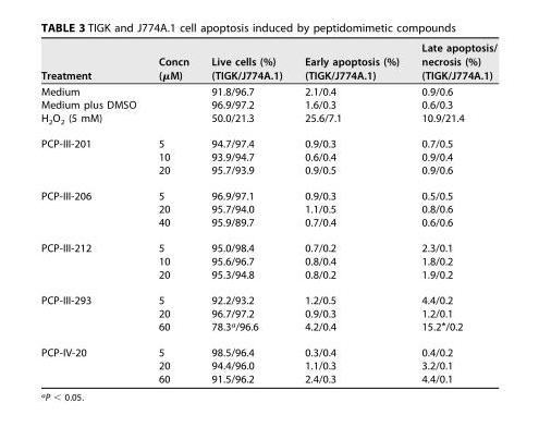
<table><thead><tr><td>Treatment</td><td>Concn (μM)</td><td>Live cells (%) (TIGK/J774A.1)</td><td>Early apoptosis (%) (TIGK/J774A.1)</td><td>Late apoptosis/ necrosis (%) (TIGK/J774A.1)</td></tr></thead><tbody><tr><td>Medium</td><td></td><td>91.8/96.7</td><td>2.1/0.4</td><td>0.9/0.6</td></tr><tr><td>Medium plus DMSO</td><td></td><td>96.9/97.2</td><td>1.6/0.3</td><td>0.6/0.3</td></tr><tr><td>H<sub>2</sub>O<sub>2</sub> (5 mM)</td><td></td><td>50.0/21.3</td><td>25.6/7.1</td><td>10.9/21.4</td></tr><tr><td rowspan="3">PCP-III-201</td><td>5</td><td>94.7/97.4</td><td>0.9/0.3</td><td>0.7/0.5</td></tr><tr><td>10</td><td>93.9/94.7</td><td>0.6/0.4</td><td>0.9/0.4</td></tr><tr><td>20</td><td>95.7/93.9</td><td>0.9/0.5</td><td>0.9/0.6</td></tr><tr><td rowspan="3">PCP-III-206</td><td>5</td><td>96.9/97.1</td><td>0.9/0.3</td><td>0.5/0.5</td></tr><tr><td>20</td><td>95.7/94.0</td><td>1.1/0.5</td><td>0.8/0.6</td></tr><tr><td>40</td><td>95.9/89.7</td><td>0.7/0.4</td><td>0.6/0.6</td></tr><tr><td rowspan="3">PCP-III-212</td><td>5</td><td>95.0/98.4</td><td>0.7/0.2</td><td>2.3/0.1</td></tr><tr><td>10</td><td>95.6/96.7</td><td>0.8/0.4</td><td>1.8/0.2</td></tr><tr><td>20</td><td>95.3/94.8</td><td>0.8/0.2</td><td>1.9/0.2</td></tr><tr><td rowspan="3">PCP-III-293</td><td>5</td><td>92.2/93.2</td><td>1.2/0.5</td><td>4.4/0.2</td></tr><tr><td>20</td><td>96.7/97.2</td><td>0.9/0.3</td><td>1.2/0.1</td></tr><tr><td>60</td><td>78.3<sup>a</sup>/96.6</td><td>4.2/0.4</td><td>15.2*/0.2</td></tr><tr><td rowspan="3">PCP-IV-20</td><td>5</td><td>98.5/96.4</td><td>0.3/0.4</td><td>0.4/0.2</td></tr><tr><td>20</td><td>94.4/96.0</td><td>1.1/0.3</td><td>3.2/0.1</td></tr><tr><td>60</td><td>91.5/96.2</td><td>2.4/0.3</td><td>4.4/0.1</td></tr></tbody></table>